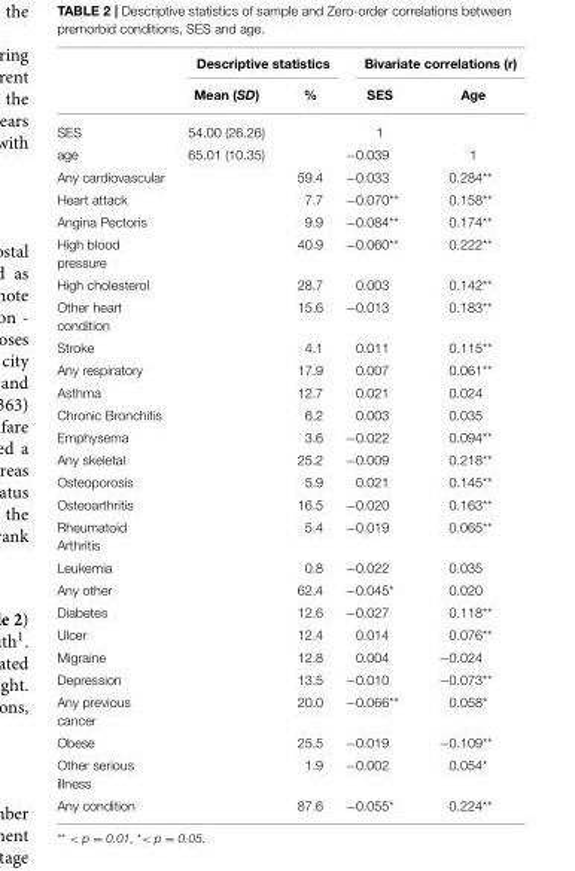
<table><thead><tr><td rowspan="2"></td><td colspan="2">Descriptive statistics</td><td colspan="2">Bivariate correlations (r)</td></tr><tr><td>Mean (SD)</td><td>%</td><td>SES</td><td>Age</td></tr></thead><tbody><tr><td>SES</td><td>54.00 (26.26)</td><td></td><td>1</td><td></td></tr><tr><td>age</td><td>65.01 (10.35)</td><td></td><td>−0.039</td><td>1</td></tr><tr><td>Any cardiovascular</td><td></td><td>59.4</td><td>−0.033</td><td>0.284**</td></tr><tr><td>Heart attack</td><td></td><td>7.7</td><td>−0.070**</td><td>0.158**</td></tr><tr><td>Angina Pectoris</td><td></td><td>9.9</td><td>−0.084**</td><td>0.174**</td></tr><tr><td>High blood pressure</td><td></td><td>40.9</td><td>−0.060**</td><td>0.222**</td></tr><tr><td>High cholesterol</td><td></td><td>28.7</td><td>0.003</td><td>0.142**</td></tr><tr><td>Other heart condition</td><td></td><td>15.6</td><td>−0.013</td><td>0.183**</td></tr><tr><td>Stroke</td><td></td><td>4.1</td><td>0.011</td><td>0.115**</td></tr><tr><td>Any respiratory</td><td></td><td>17.9</td><td>0.007</td><td>0.061**</td></tr><tr><td>Asthma</td><td></td><td>12.7</td><td>0.021</td><td>0.024</td></tr><tr><td>Chronic Bronchitis</td><td></td><td>6.2</td><td>0.003</td><td>0.035</td></tr><tr><td>Emphysema</td><td></td><td>3.6</td><td>−0.022</td><td>0.094**</td></tr><tr><td>Any skeletal</td><td></td><td>25.2</td><td>−0.009</td><td>0.218**</td></tr><tr><td>Osteoporosis</td><td></td><td>5.9</td><td>0.021</td><td>0.145**</td></tr><tr><td>Osteoarthritis</td><td></td><td>16.5</td><td>−0.020</td><td>0.163**</td></tr><tr><td>Rheumatoid Arthritis</td><td></td><td>5.4</td><td>−0.019</td><td>0.065**</td></tr><tr><td>Leukemia</td><td></td><td>0.8</td><td>−0.022</td><td>0.035</td></tr><tr><td>Any other</td><td></td><td>62.4</td><td>−0.045*</td><td>0.020</td></tr><tr><td>Diabetes</td><td></td><td>12.6</td><td>−0.027</td><td>0.118**</td></tr><tr><td>Ulcer</td><td></td><td>12.4</td><td>0.014</td><td>0.076**</td></tr><tr><td>Migraine</td><td></td><td>12.8</td><td>0.004</td><td>−0.024</td></tr><tr><td>Depression</td><td></td><td>13.5</td><td>−0.010</td><td>−0.073**</td></tr><tr><td>Any previous cancer</td><td></td><td>20.0</td><td>−0.066**</td><td>0.058*</td></tr><tr><td>Obese</td><td></td><td>25.5</td><td>−0.019</td><td>−0.109**</td></tr><tr><td>Other serious illness</td><td></td><td>1.9</td><td>−0.002</td><td>0.054*</td></tr><tr><td>Any condition</td><td></td><td>87.6</td><td>−0.055*</td><td>0.224**</td></tr></tbody></table>